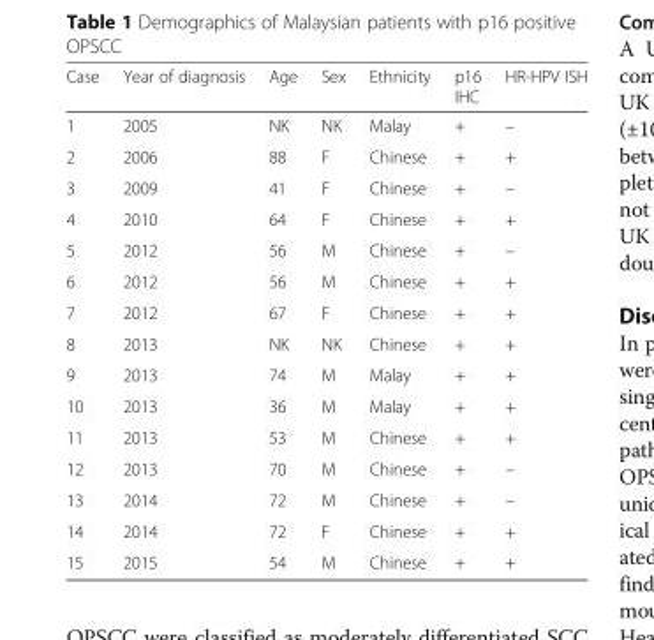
<table><thead><tr><td>Case</td><td>Year of diagnosis</td><td>Age</td><td>Sex</td><td>Ethnicity</td><td>p16 IHC</td><td>HR-HPV ISH</td></tr></thead><tbody><tr><td>1</td><td>2005</td><td>NK</td><td>NK</td><td>Malay</td><td>+</td><td>–</td></tr><tr><td>2</td><td>2006</td><td>88</td><td>F</td><td>Chinese</td><td>+</td><td>+</td></tr><tr><td>3</td><td>2009</td><td>41</td><td>F</td><td>Chinese</td><td>+</td><td>–</td></tr><tr><td>4</td><td>2010</td><td>64</td><td>F</td><td>Chinese</td><td>+</td><td>+</td></tr><tr><td>5</td><td>2012</td><td>56</td><td>M</td><td>Chinese</td><td>+</td><td>–</td></tr><tr><td>6</td><td>2012</td><td>56</td><td>M</td><td>Chinese</td><td>+</td><td>+</td></tr><tr><td>7</td><td>2012</td><td>67</td><td>F</td><td>Chinese</td><td>+</td><td>+</td></tr><tr><td>8</td><td>2013</td><td>NK</td><td>NK</td><td>Chinese</td><td>+</td><td>+</td></tr><tr><td>9</td><td>2013</td><td>74</td><td>M</td><td>Malay</td><td>+</td><td>+</td></tr><tr><td>10</td><td>2013</td><td>36</td><td>M</td><td>Malay</td><td>+</td><td>+</td></tr><tr><td>11</td><td>2013</td><td>53</td><td>M</td><td>Chinese</td><td>+</td><td>+</td></tr><tr><td>12</td><td>2013</td><td>70</td><td>M</td><td>Chinese</td><td>+</td><td>–</td></tr><tr><td>13</td><td>2014</td><td>72</td><td>M</td><td>Chinese</td><td>+</td><td>–</td></tr><tr><td>14</td><td>2014</td><td>72</td><td>F</td><td>Chinese</td><td>+</td><td>+</td></tr><tr><td>15</td><td>2015</td><td>54</td><td>M</td><td>Chinese</td><td>+</td><td>+</td></tr></tbody></table>